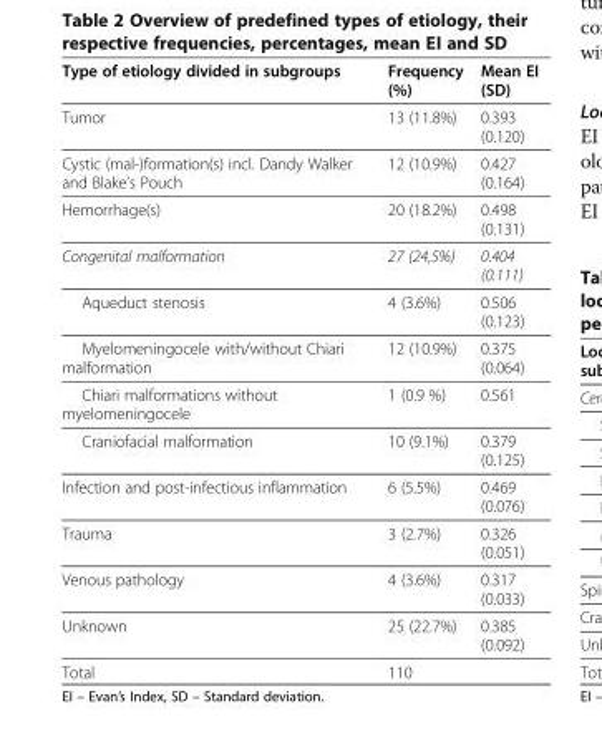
<table><thead><tr><td>Type of etiology divided in subgroups</td><td>Frequency (%)</td><td>Mean EI (SD)</td></tr></thead><tbody><tr><td>Tumor</td><td>13 (11.8%)</td><td>0.393 (0.120)</td></tr><tr><td>Cystic (mal-)formation(s) incl. Dandy Walker and Blake’s Pouch</td><td>12 (10.9%)</td><td>0.427 (0.164)</td></tr><tr><td>Hemorrhage(s)</td><td>20 (18.2%)</td><td>0.498 (0.131)</td></tr><tr><td>Congenital malformation</td><td>27 (24,5%)</td><td>0.404 (0.111)</td></tr><tr><td>Aqueduct stenosis</td><td>4 (3.6%)</td><td>0.506 (0.123)</td></tr><tr><td>Myelomeningocele with/without Chiari malformation</td><td>12 (10.9%)</td><td>0.375 (0.064)</td></tr><tr><td>Chiari malformations without myelomeningocele</td><td>1 (0.9 %)</td><td>0.561</td></tr><tr><td>Craniofacial malformation</td><td>10 (9.1%)</td><td>0.379 (0.125)</td></tr><tr><td>Infection and post-infectious inflammation</td><td>6 (5.5%)</td><td>0.469 (0.076)</td></tr><tr><td>Trauma</td><td>3 (2.7%)</td><td>0.326 (0.051)</td></tr><tr><td>Venous pathology</td><td>4 (3.6%)</td><td>0.317 (0.033)</td></tr><tr><td>Unknown</td><td>25 (22.7%)</td><td>0.385 (0.092)</td></tr><tr><td>Total</td><td>110</td><td></td></tr></tbody></table>